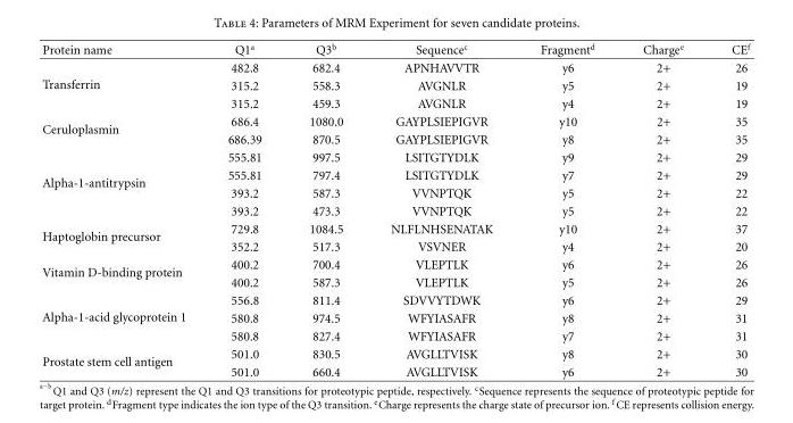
<table><thead><tr><td>Protein name</td><td>Q1<sup>a</sup></td><td>Q3<sup>b</sup></td><td>Sequence<sup>c</sup></td><td>Fragment<sup>d</sup></td><td>Charge<sup>e</sup></td><td>CE<sup>f</sup></td></tr></thead><tbody><tr><td rowspan="3">Transferrin</td><td>482.8</td><td>682.4</td><td>APNHAVVTR</td><td>y6</td><td>2+</td><td>26</td></tr><tr><td>315.2</td><td>558.3</td><td>AVGNLR</td><td>y5</td><td>2+</td><td>19</td></tr><tr><td>315.2</td><td>459.3</td><td>AVGNLR</td><td>y4</td><td>2+</td><td>19</td></tr><tr><td rowspan="2">Ceruloplasmin</td><td>686.4</td><td>1080.0</td><td>GAYPLSIEPIGVR</td><td>y10</td><td>2+</td><td>35</td></tr><tr><td>686.39</td><td>870.5</td><td>GAYPLSIEPIGVR</td><td>y8</td><td>2+</td><td>35</td></tr><tr><td rowspan="4">Alpha-1-antitrypsin</td><td>555.81</td><td>997.5</td><td>LSITGTYDLK</td><td>y9</td><td>2+</td><td>29</td></tr><tr><td>555.81</td><td>797.4</td><td>LSITGTYDLK</td><td>y7</td><td>2+</td><td>29</td></tr><tr><td>393.2</td><td>587.3</td><td>VVNPTQK</td><td>y5</td><td>2+</td><td>22</td></tr><tr><td>393.2</td><td>473.3</td><td>VVNPTQK</td><td>y5</td><td>2+</td><td>22</td></tr><tr><td rowspan="2">Haptoglobin precursor</td><td>729.8</td><td>1084.5</td><td>NLFLNHSENATAK</td><td>y10</td><td>2+</td><td>37</td></tr><tr><td>352.2</td><td>517.3</td><td>VSVNER</td><td>y4</td><td>2+</td><td>20</td></tr><tr><td rowspan="2">Vitamin D-binding protein</td><td>400.2</td><td>700.4</td><td>VLEPTLK</td><td>y6</td><td>2+</td><td>26</td></tr><tr><td>400.2</td><td>587.3</td><td>VLEPTLK</td><td>y5</td><td>2+</td><td>26</td></tr><tr><td rowspan="3">Alpha-1-acid glycoprotein 1</td><td>556.8</td><td>811.4</td><td>SDVVYTDWK</td><td>y6</td><td>2+</td><td>29</td></tr><tr><td>580.8</td><td>974.5</td><td>WFYIASAFR</td><td>y8</td><td>2+</td><td>31</td></tr><tr><td>580.8</td><td>827.4</td><td>WFYIASAFR</td><td>y7</td><td>2+</td><td>31</td></tr><tr><td rowspan="2">Prostate stem cell antigen</td><td>501.0</td><td>830.5</td><td>AVGLLTVISK</td><td>y8</td><td>2+</td><td>30</td></tr><tr><td>501.0</td><td>660.4</td><td>AVGLLTVISK</td><td>y6</td><td>2+</td><td>30</td></tr></tbody></table>